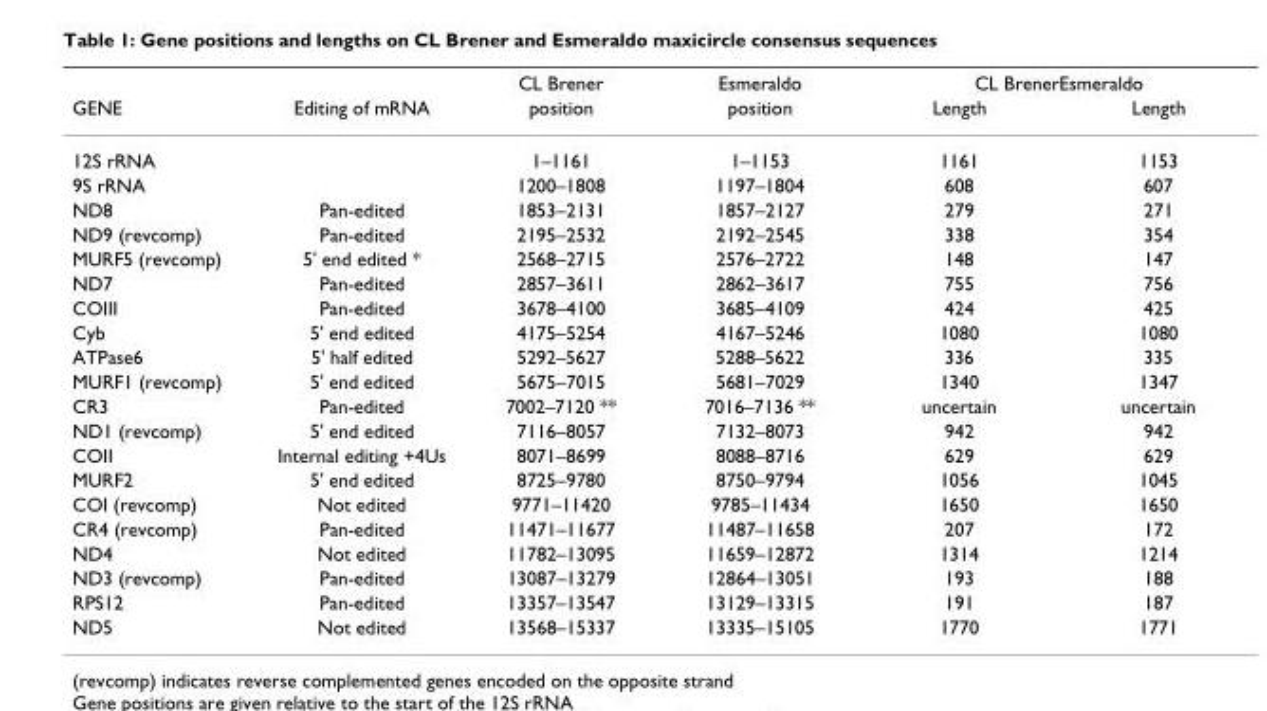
<table><thead><tr><td rowspan="2">GENE</td><td rowspan="2">Editing of mRNA</td><td rowspan="2">CL Brener position</td><td rowspan="2">Esmeraldo position</td><td colspan="2">CL BrenerEsmeraldo</td></tr><tr><td>Length</td><td>Length</td></tr></thead><tbody><tr><td>12S rRNA</td><td></td><td>1–1161</td><td>1–1153</td><td>1161</td><td>1153</td></tr><tr><td>9S rRNA</td><td></td><td>1200–1808</td><td>1197–1804</td><td>608</td><td>607</td></tr><tr><td>ND8</td><td>Pan-edited</td><td>1853–2131</td><td>1857–2127</td><td>279</td><td>271</td></tr><tr><td>ND9 (revcomp)</td><td>Pan-edited</td><td>2195–2532</td><td>2192–2545</td><td>338</td><td>354</td></tr><tr><td>MURF5 (revcomp)</td><td>5&#x27; end edited *</td><td>2568–2715</td><td>2576–2722</td><td>148</td><td>147</td></tr><tr><td>ND7</td><td>Pan-edited</td><td>2857–3611</td><td>2862–3617</td><td>755</td><td>756</td></tr><tr><td>COIII</td><td>Pan-edited</td><td>3678–4100</td><td>3685–4109</td><td>424</td><td>425</td></tr><tr><td>Cyb</td><td>5&#x27; end edited</td><td>4175–5254</td><td>4167–5246</td><td>1080</td><td>1080</td></tr><tr><td>ATPase6</td><td>5&#x27; half edited</td><td>5292–5627</td><td>5288–5622</td><td>336</td><td>335</td></tr><tr><td>MURF1 (revcomp)</td><td>5&#x27; end edited</td><td>5675–7015</td><td>5681–7029</td><td>1340</td><td>1347</td></tr><tr><td>CR3</td><td>Pan-edited</td><td>7002–7120 **</td><td>7016–7136 **</td><td>uncertain</td><td>uncertain</td></tr><tr><td>ND1 (revcomp)</td><td>5&#x27; end edited</td><td>7116–8057</td><td>7132–8073</td><td>942</td><td>942</td></tr><tr><td>COII</td><td>Internal editing +4Us</td><td>8071–8699</td><td>8088–8716</td><td>629</td><td>629</td></tr><tr><td>MURF2</td><td>5&#x27; end edited</td><td>8725–9780</td><td>8750–9794</td><td>1056</td><td>1045</td></tr><tr><td>COI (revcomp)</td><td>Not edited</td><td>9771–11420</td><td>9785–11434</td><td>1650</td><td>1650</td></tr><tr><td>CR4 (revcomp)</td><td>Pan-edited</td><td>11471–11677</td><td>11487–11658</td><td>207</td><td>172</td></tr><tr><td>ND4</td><td>Not edited</td><td>11782–13095</td><td>11659–12872</td><td>1314</td><td>1214</td></tr><tr><td>ND3 (revcomp)</td><td>Pan-edited</td><td>13087–13279</td><td>12864–13051</td><td>193</td><td>188</td></tr><tr><td>RPS12</td><td>Pan-edited</td><td>13357–13547</td><td>13129–13315</td><td>191</td><td>187</td></tr><tr><td>ND5</td><td>Not edited</td><td>13568–15337</td><td>13335–15105</td><td>1770</td><td>1771</td></tr></tbody></table>